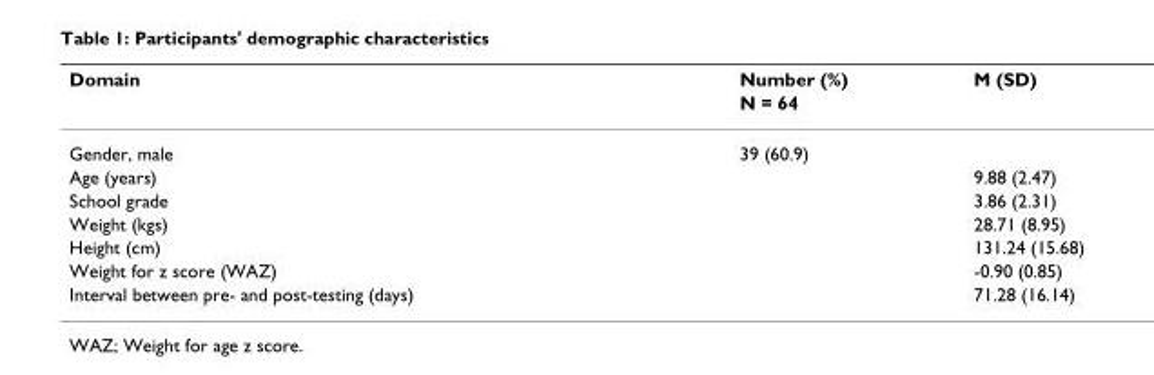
<table><thead><tr><td rowspan="2">Domain</td><td rowspan="2">Number (%) N = 64</td><td rowspan="2">M (SD)</td></tr><tr></tr></thead><tbody><tr><td>Gender, male</td><td>39 (60.9)</td><td></td></tr><tr><td>Age (years)</td><td></td><td>9.88 (2.47)</td></tr><tr><td>School grade</td><td></td><td>3.86 (2.31)</td></tr><tr><td>Weight (kgs)</td><td></td><td>28.71 (8.95)</td></tr><tr><td>Height (cm)</td><td></td><td>131.24 (15.68)</td></tr><tr><td>Weight for z score (WAZ)</td><td></td><td>-0.90 (0.85)</td></tr><tr><td>Interval between pre- and post-testing (days)</td><td></td><td>71.28 (16.14)</td></tr></tbody></table>